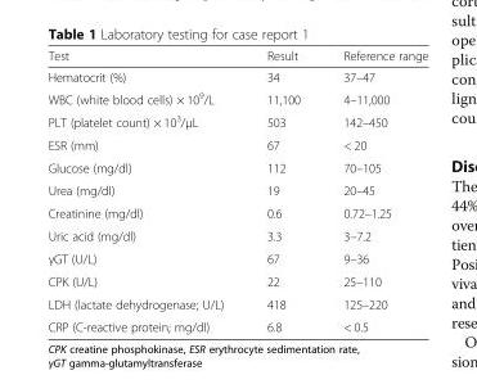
<table><thead><tr><td>Test</td><td>Result</td><td>Reference range</td></tr></thead><tbody><tr><td>Hematocrit (%)</td><td>34</td><td>37–47</td></tr><tr><td>WBC (white blood cells) × 10<sup>9</sup>/L</td><td>11,100</td><td>4–11,000</td></tr><tr><td>PLT (platelet count) × 10<sup>3</sup>/μL</td><td>503</td><td>142–450</td></tr><tr><td>ESR (mm)</td><td>67</td><td>&lt; 20</td></tr><tr><td>Glucose (mg/dl)</td><td>112</td><td>70–105</td></tr><tr><td>Urea (mg/dl)</td><td>19</td><td>20–45</td></tr><tr><td>Creatinine (mg/dl)</td><td>0.6</td><td>0.72–1.25</td></tr><tr><td>Uric acid (mg/dl)</td><td>3.3</td><td>3–7.2</td></tr><tr><td>γGT (U/L)</td><td>67</td><td>9–36</td></tr><tr><td>CPK (U/L)</td><td>22</td><td>25–110</td></tr><tr><td>LDH (lactate dehydrogenase; U/L)</td><td>418</td><td>125–220</td></tr><tr><td>CRP (C-reactive protein; mg/dl)</td><td>6.8</td><td>&lt; 0.5</td></tr></tbody></table>